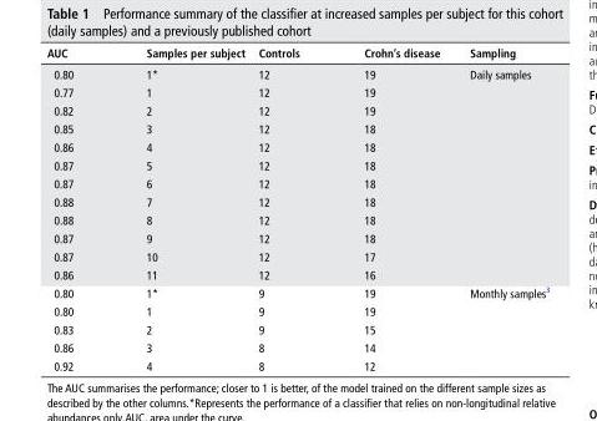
<table><thead><tr><td>AUC</td><td>Samples per subject</td><td>Controls</td><td>Crohn’s disease</td><td>Sampling</td></tr></thead><tbody><tr><td>0.80</td><td>1*</td><td>12</td><td>19</td><td rowspan="12">Daily samples</td></tr><tr><td>0.77</td><td>1</td><td>12</td><td>19</td></tr><tr><td>0.82</td><td>2</td><td>12</td><td>19</td></tr><tr><td>0.85</td><td>3</td><td>12</td><td>18</td></tr><tr><td>0.86</td><td>4</td><td>12</td><td>18</td></tr><tr><td>0.87</td><td>5</td><td>12</td><td>18</td></tr><tr><td>0.87</td><td>6</td><td>12</td><td>18</td></tr><tr><td>0.88</td><td>7</td><td>12</td><td>18</td></tr><tr><td>0.88</td><td>8</td><td>12</td><td>18</td></tr><tr><td>0.87</td><td>9</td><td>12</td><td>18</td></tr><tr><td>0.87</td><td>10</td><td>12</td><td>17</td></tr><tr><td>0.86</td><td>11</td><td>12</td><td>16</td></tr><tr><td>0.80</td><td>1*</td><td>9</td><td>19</td><td rowspan="5">Monthly samples<sup>3</sup></td></tr><tr><td>0.80</td><td>1</td><td>9</td><td>19</td></tr><tr><td>0.83</td><td>2</td><td>9</td><td>15</td></tr><tr><td>0.86</td><td>3</td><td>8</td><td>14</td></tr><tr><td>0.92</td><td>4</td><td>8</td><td>12</td></tr></tbody></table>